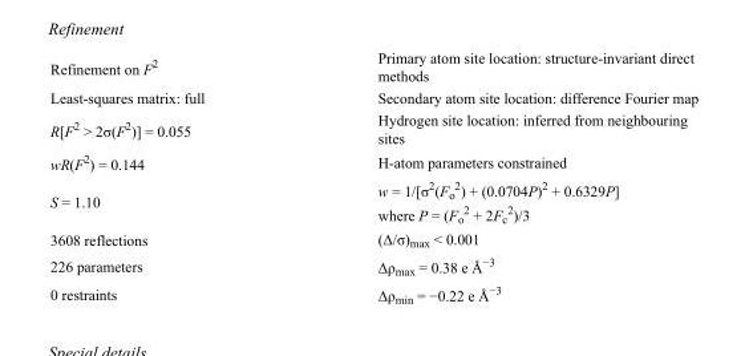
<table><tbody><tr><td>Refinement on F<sup>2</sup></td><td>Primary atom site location: structure-invariant direct methods</td></tr><tr><td>Least-squares matrix: full</td><td>Secondary atom site location: difference Fourier map</td></tr><tr><td>R[F<sup>2</sup> &gt; 2σ(F<sup>2</sup>)] = 0.055</td><td>Hydrogen site location: inferred from neighbouring sites</td></tr><tr><td>wR(F<sup>2</sup>) = 0.144</td><td>H-atom parameters constrained</td></tr><tr><td>S = 1.10</td><td>w = 1/[σ<sup>2</sup>(F<sub>o</sub> <sup>2</sup>) + (0.0704P)<sup>2</sup> + 0.6329P] where P = (F<sub>o</sub> <sup>2</sup> + 2F<sub>c</sub> <sup>2</sup>)/3</td></tr><tr><td>3608 reflections</td><td>(Δ/σ)<sub>max</sub> &lt; 0.001</td></tr><tr><td>226 parameters</td><td>Δρ<sub>max</sub> = 0.38 e Å<sup>−3</sup></td></tr><tr><td>0 restraints</td><td>Δρ<sub>min</sub> = −0.22 e Å<sup>−3</sup></td></tr></tbody></table>